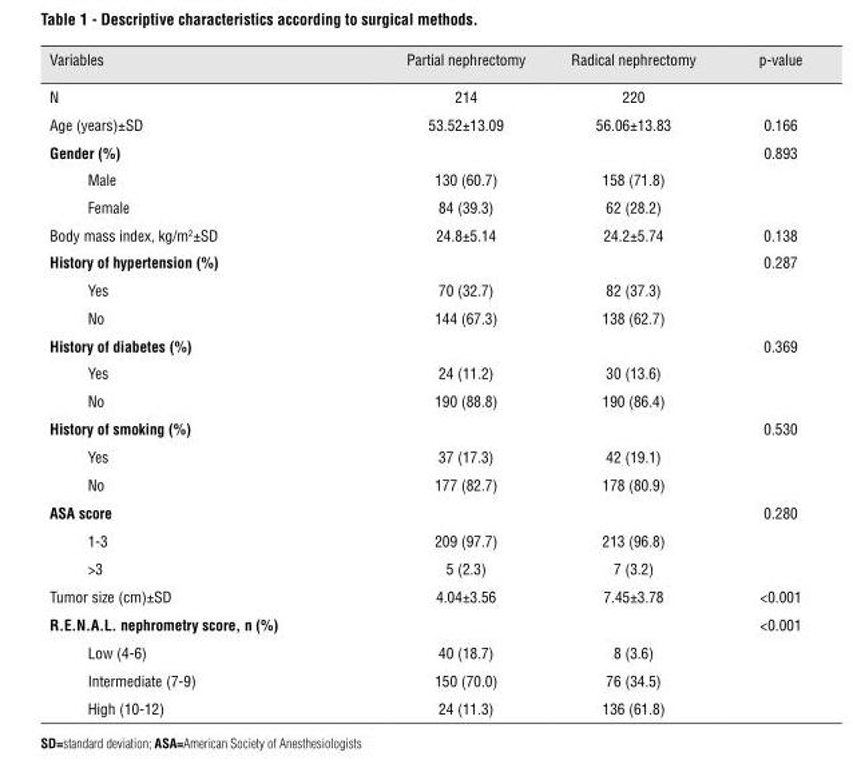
<table><thead><tr><td>Variables</td><td>Partial nephrectomy</td><td>Radical nephrectomy</td><td>p-value</td></tr></thead><tbody><tr><td>N</td><td>214</td><td>220</td><td></td></tr><tr><td>Age (years)±SD</td><td>53.52±13.09</td><td>56.06±13.83</td><td>0.166</td></tr><tr><td>gender (%)</td><td></td><td></td><td>0.893</td></tr><tr><td>Male</td><td>130 (60.7)</td><td>158 (71.8)</td><td></td></tr><tr><td>Female</td><td>84 (39.3)</td><td>62 (28.2)</td><td></td></tr><tr><td>Body mass index, kg/m<sup>2</sup>±SD</td><td>24.8±5.14</td><td>24.2±5.74</td><td>0.138</td></tr><tr><td>History of hypertension (%)</td><td></td><td></td><td>0.287</td></tr><tr><td>Yes</td><td>70 (32.7)</td><td>82 (37.3)</td><td></td></tr><tr><td>No</td><td>144 (67.3)</td><td>138 (62.7)</td><td></td></tr><tr><td>History of diabetes (%)</td><td></td><td></td><td>0.369</td></tr><tr><td>Yes</td><td>24 (11.2)</td><td>30 (13.6)</td><td></td></tr><tr><td>No</td><td>190 (88.8)</td><td>190 (86.4)</td><td></td></tr><tr><td>History of smoking (%)</td><td></td><td></td><td>0.530</td></tr><tr><td>Yes</td><td>37 (17.3)</td><td>42 (19.1)</td><td></td></tr><tr><td>No</td><td>177 (82.7)</td><td>178 (80.9)</td><td></td></tr><tr><td>asa score</td><td></td><td></td><td>0.280</td></tr><tr><td>1-3</td><td>209 (97.7)</td><td>213 (96.8)</td><td></td></tr><tr><td>&gt;3</td><td>5 (2.3)</td><td>7 (3.2)</td><td></td></tr><tr><td>Tumor size (cm)±SD</td><td>4.04±3.56</td><td>7.45±3.78</td><td>&lt;0.001</td></tr><tr><td>R.E.N.a.l. nephrometry score, n (%)</td><td></td><td></td><td>&lt;0.001</td></tr><tr><td>Low (4-6)</td><td>40 (18.7)</td><td>8 (3.6)</td><td></td></tr><tr><td>Intermediate (7-9)</td><td>150 (70.0)</td><td>76 (34.5)</td><td></td></tr><tr><td>High (10-12)</td><td>24 (11.3)</td><td>136 (61.8)</td><td></td></tr></tbody></table>